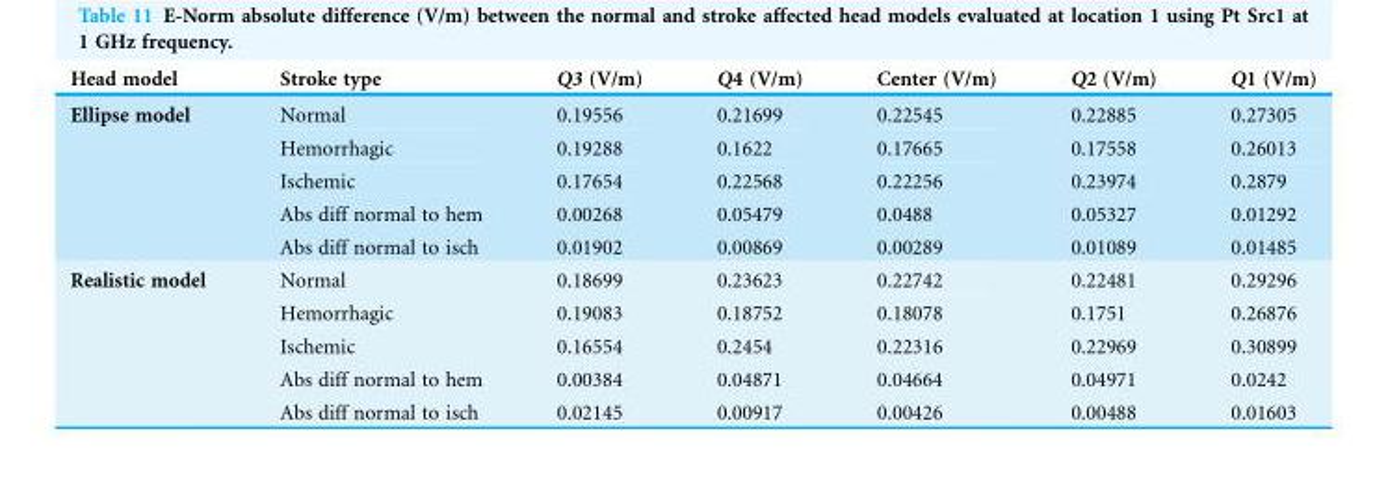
<table><thead><tr><td>Head model</td><td>Stroke type</td><td>Q3 (V/m)</td><td>Q4 (V/m)</td><td>Center (V/m)</td><td>Q2 (V/m)</td><td>Q1 (V/m)</td></tr></thead><tbody><tr><td rowspan="5">Ellipse model</td><td>Normal</td><td>0.19556</td><td>0.21699</td><td>0.22545</td><td>0.22885</td><td>0.27305</td></tr><tr><td>Hemorrhagic</td><td>0.19288</td><td>0.1622</td><td>0.17665</td><td>0.17558</td><td>0.26013</td></tr><tr><td>Ischemic</td><td>0.17654</td><td>0.22568</td><td>0.22256</td><td>0.23974</td><td>0.2879</td></tr><tr><td>Abs diff normal to hem</td><td>0.00268</td><td>0.05479</td><td>0.0488</td><td>0.05327</td><td>0.01292</td></tr><tr><td>Abs diff normal to isch</td><td>0.01902</td><td>0.00869</td><td>0.00289</td><td>0.01089</td><td>0.01485</td></tr><tr><td rowspan="5">Realistic model</td><td>Normal</td><td>0.18699</td><td>0.23623</td><td>0.22742</td><td>0.22481</td><td>0.29296</td></tr><tr><td>Hemorrhagic</td><td>0.19083</td><td>0.18752</td><td>0.18078</td><td>0.1751</td><td>0.26876</td></tr><tr><td>Ischemic</td><td>0.16554</td><td>0.2454</td><td>0.22316</td><td>0.22969</td><td>0.30899</td></tr><tr><td>Abs diff normal to hem</td><td>0.00384</td><td>0.04871</td><td>0.04664</td><td>0.04971</td><td>0.0242</td></tr><tr><td>Abs diff normal to isch</td><td>0.02145</td><td>0.00917</td><td>0.00426</td><td>0.00488</td><td>0.01603</td></tr></tbody></table>